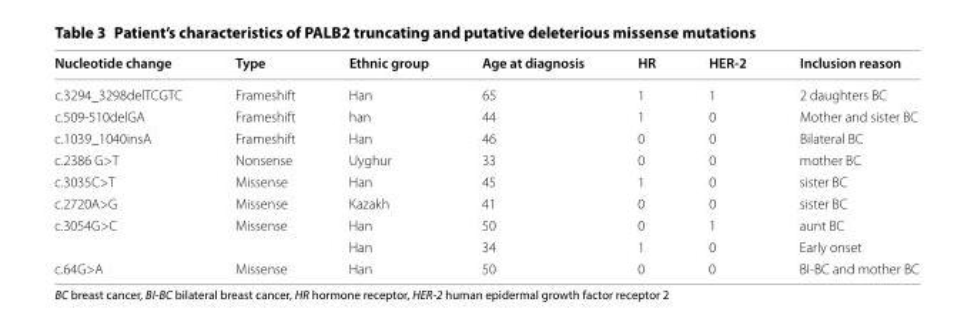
<table><thead><tr><td>Nucleotide change</td><td>Type</td><td>Ethnic group</td><td>Age at diagnosis</td><td>HR</td><td>HER-2</td><td>Inclusion reason</td></tr></thead><tbody><tr><td>c.3294_3298delTCGTC</td><td>Frameshift</td><td>Han</td><td>65</td><td>1</td><td>1</td><td>2 daughters BC</td></tr><tr><td>c.509-510delGA</td><td>Frameshift</td><td>han</td><td>44</td><td>1</td><td>0</td><td>Mother and sister BC</td></tr><tr><td>c.1039_1040insA</td><td>Frameshift</td><td>Han</td><td>46</td><td>0</td><td>0</td><td>Bilateral BC</td></tr><tr><td>c.2386 G&gt;T</td><td>Nonsense</td><td>Uyghur</td><td>33</td><td>0</td><td>0</td><td>mother BC</td></tr><tr><td>c.3035C&gt;T</td><td>Missense</td><td>Han</td><td>45</td><td>1</td><td>0</td><td>sister BC</td></tr><tr><td>c.2720A&gt;G</td><td>Missense</td><td>Kazakh</td><td>41</td><td>0</td><td>0</td><td>sister BC</td></tr><tr><td rowspan="2">c.3054G&gt;C</td><td rowspan="2">Missense</td><td>Han</td><td>50</td><td>0</td><td>1</td><td>aunt BC</td></tr><tr><td>Han</td><td>34</td><td>1</td><td>0</td><td>Early onset</td></tr><tr><td>c.64G&gt;A</td><td>Missense</td><td>Han</td><td>50</td><td>0</td><td>0</td><td>BI-BC and mother BC</td></tr></tbody></table>